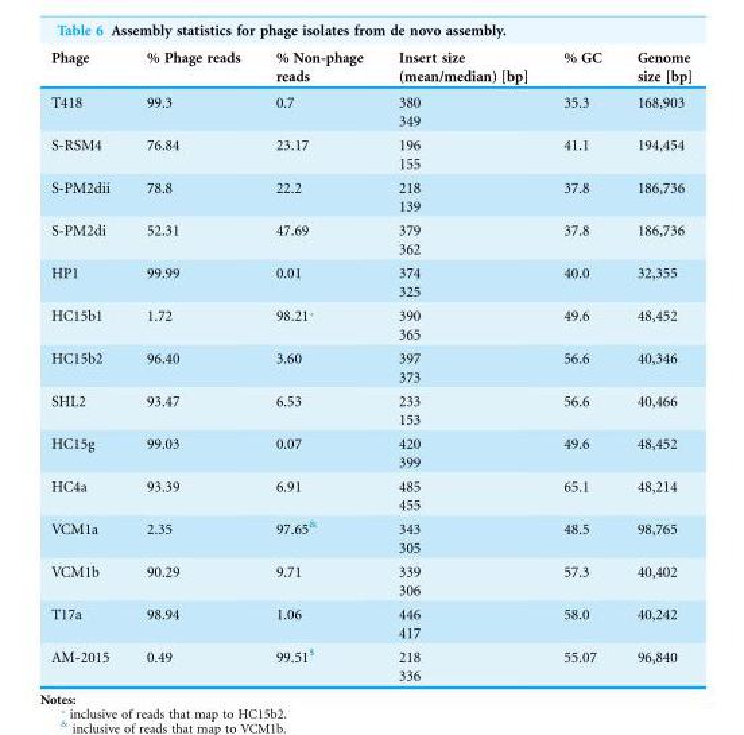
<table><thead><tr><td>Phage</td><td>% Phage reads</td><td>% Non-phage reads</td><td>Insert size (mean/median) [bp]</td><td>% GC</td><td>Genome size [bp]</td></tr></thead><tbody><tr><td>T418</td><td>99.3</td><td>0.7</td><td>380 349</td><td>35.3</td><td>168,903</td></tr><tr><td>S-RSM4</td><td>76.84</td><td>23.17</td><td>196 155</td><td>41.1</td><td>194,454</td></tr><tr><td>S-PM2dii</td><td>78.8</td><td>22.2</td><td>218 139</td><td>37.8</td><td>186,736</td></tr><tr><td>S-PM2di</td><td>52.31</td><td>47.69</td><td>379 362</td><td>37.8</td><td>186,736</td></tr><tr><td>HP1</td><td>99.99</td><td>0.01</td><td>374 325</td><td>40.0</td><td>32,355</td></tr><tr><td>HC15b1</td><td>1.72</td><td>98.21*</td><td>390 365</td><td>49.6</td><td>48,452</td></tr><tr><td>HC15b2</td><td>96.40</td><td>3.60</td><td>397 373</td><td>56.6</td><td>40,346</td></tr><tr><td>SHL2</td><td>93.47</td><td>6.53</td><td>233 153</td><td>56.6</td><td>40,466</td></tr><tr><td>HC15g</td><td>99.03</td><td>0.07</td><td>420 399</td><td>49.6</td><td>48,452</td></tr><tr><td>HC4a</td><td>93.39</td><td>6.91</td><td>485 455</td><td>65.1</td><td>48,214</td></tr><tr><td>VCM1a</td><td>2.35</td><td>97.65<sup>&amp;</sup></td><td>343 305</td><td>48.5</td><td>98,765</td></tr><tr><td>VCM1b</td><td>90.29</td><td>9.71</td><td>339 306</td><td>57.3</td><td>40,402</td></tr><tr><td>T17a</td><td>98.94</td><td>1.06</td><td>446 417</td><td>58.0</td><td>40,242</td></tr><tr><td>AM-2015</td><td>0.49</td><td>99.51<sup>$</sup></td><td>218 336</td><td>55.07</td><td>96,840</td></tr></tbody></table>